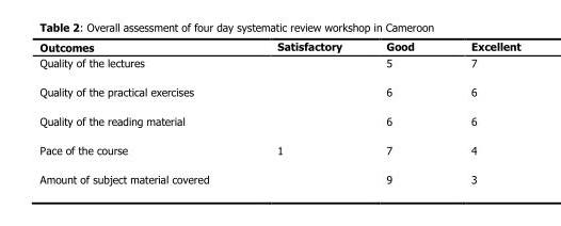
<table><thead><tr><td>Outcomes</td><td>Satisfactory</td><td>Good</td><td>Excellent</td></tr></thead><tbody><tr><td>Quality of the lectures</td><td></td><td>5</td><td>7</td></tr><tr><td>Quality of the practical exercises</td><td></td><td>6</td><td>6</td></tr><tr><td>Quality of the reading material</td><td></td><td>6</td><td>6</td></tr><tr><td>Pace of the course</td><td>1</td><td>7</td><td>4</td></tr><tr><td>Amount of subject material covered</td><td></td><td>9</td><td>3</td></tr></tbody></table>